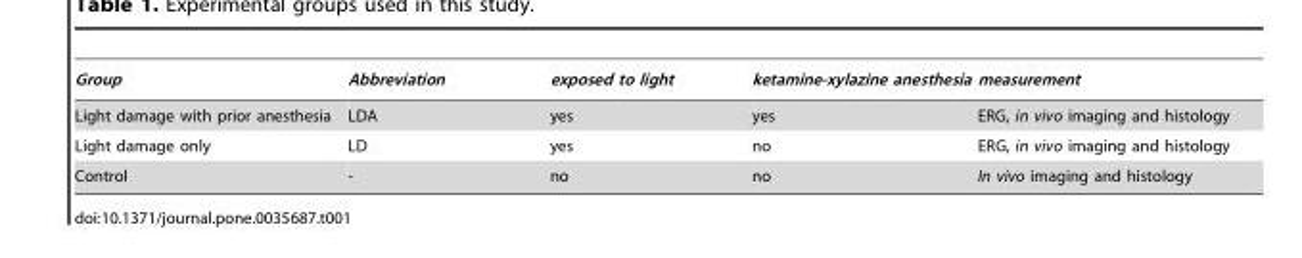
<table><thead><tr><td>Group</td><td>Abbreviation</td><td>exposed to light</td><td>ketamine-xylazine anesthesia</td><td>measurement</td></tr></thead><tbody><tr><td>Light damage with prior anesthesia</td><td>LDA</td><td>yes</td><td>yes</td><td>ERG, in vivo imaging and histology</td></tr><tr><td>Light damage only</td><td>LD</td><td>yes</td><td>no</td><td>ERG, in vivo imaging and histology</td></tr><tr><td>Control</td><td>-</td><td>no</td><td>no</td><td>In vivo imaging and histology</td></tr></tbody></table>